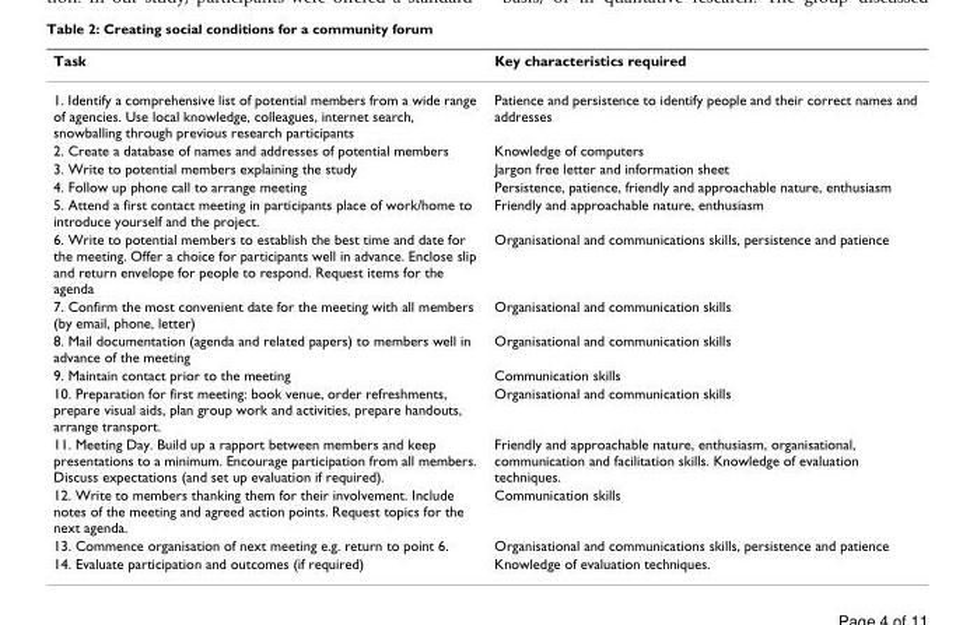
<table><thead><tr><td>Task</td><td>Key characteristics required</td></tr></thead><tbody><tr><td>1. Identify a comprehensive list of potential members from a wide range of agencies. Use local knowledge, colleagues, internet search, snowballing through previous research participants</td><td>Patience and persistence to identify people and their correct names and addresses</td></tr><tr><td>2. Create a database of names and addresses of potential members</td><td>Knowledge of computers</td></tr><tr><td>3. Write to potential members explaining the study</td><td>Jargon free letter and information sheet</td></tr><tr><td>4. Follow up phone call to arrange meeting</td><td>Persistence, patience, friendly and approachable nature, enthusiasm</td></tr><tr><td>5. Attend a first contact meeting in participants place of work/home to introduce yourself and the project.</td><td>Friendly and approachable nature, enthusiasm</td></tr><tr><td>6. Write to potential members to establish the best time and date for the meeting. Offer a choice for participants well in advance. Enclose slip and return envelope for people to respond. Request items for the agenda</td><td>Organisational and communications skills, persistence and patience</td></tr><tr><td>7. Confirm the most convenient date for the meeting with all members (by email, phone, letter)</td><td>Organisational and communication skills</td></tr><tr><td>8. Mail documentation (agenda and related papers) to members well in advance of the meeting</td><td>Organisational and communication skills</td></tr><tr><td>9. Maintain contact prior to the meeting</td><td>Communication skills</td></tr><tr><td>10. Preparation for first meeting: book venue, order refreshments, prepare visual aids, plan group work and activities, prepare handouts, arrange transport.</td><td>Organisational and communication skills</td></tr><tr><td>11. Meeting Day. Build up a rapport between members and keep presentations to a minimum. Encourage participation from all members. Discuss expectations (and set up evaluation if required).</td><td>Friendly and approachable nature, enthusiasm, organisational, communication and facilitation skills. Knowledge of evaluation techniques.</td></tr><tr><td>12. Write to members thanking them for their involvement. Include notes of the meeting and agreed action points. Request topics for the next agenda.</td><td>Communication skills</td></tr><tr><td>13. Commence organisation of next meeting e.g. return to point 6.</td><td>Organisational and communications skills, persistence and patience</td></tr><tr><td>14. Evaluate participation and outcomes (if required)</td><td>Knowledge of evaluation techniques.</td></tr></tbody></table>